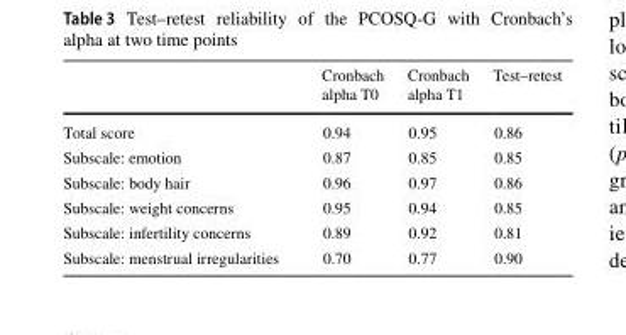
<table><thead><tr><td></td><td>Cronbach alpha T0</td><td>Cronbach alpha T1</td><td>Test–retest</td></tr></thead><tbody><tr><td>Total score</td><td>0.94</td><td>0.95</td><td>0.86</td></tr><tr><td>Subscale: emotion</td><td>0.87</td><td>0.85</td><td>0.85</td></tr><tr><td>Subscale: body hair</td><td>0.96</td><td>0.97</td><td>0.86</td></tr><tr><td>Subscale: weight concerns</td><td>0.95</td><td>0.94</td><td>0.85</td></tr><tr><td>Subscale: infertility concerns</td><td>0.89</td><td>0.92</td><td>0.81</td></tr><tr><td>Subscale: menstrual irregularities</td><td>0.70</td><td>0.77</td><td>0.90</td></tr></tbody></table>